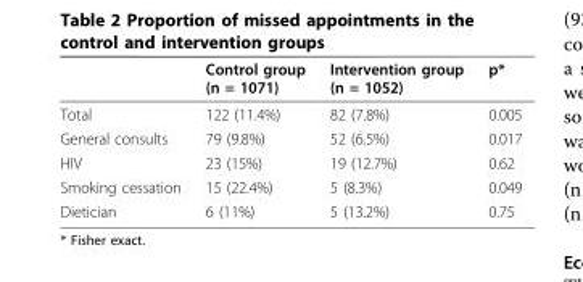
<table><thead><tr><td></td><td>Control group (n = 1071)</td><td>Intervention group (n = 1052)</td><td>p*</td></tr></thead><tbody><tr><td>Total</td><td>122 (11.4%)</td><td>82 (7.8%)</td><td>0.005</td></tr><tr><td>General consults</td><td>79 (9.8%)</td><td>52 (6.5%)</td><td>0.017</td></tr><tr><td>HIV</td><td>23 (15%)</td><td>19 (12.7%)</td><td>0.62</td></tr><tr><td>Smoking cessation</td><td>15 (22.4%)</td><td>5 (8.3%)</td><td>0.049</td></tr><tr><td>Dietician</td><td>6 (11%)</td><td>5 (13.2%)</td><td>0.75</td></tr></tbody></table>